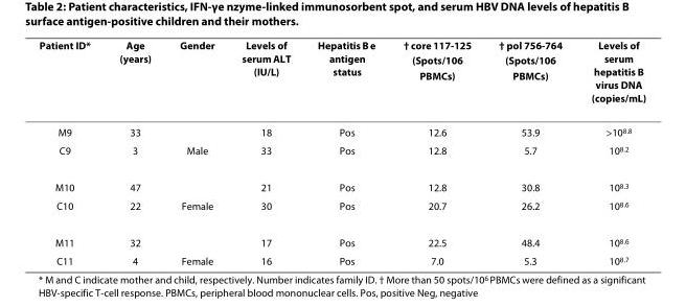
<table><thead><tr><td>Patient ID*</td><td>Age (years)</td><td>Gender</td><td>Levels of serum ALT (IU/L)</td><td>Hepatitis B e antigen status</td><td>† core 117-125 (Spots/10<sup>6</sup> PBMCs)</td><td>† pol 756-764 (Spots/10<sup>6</sup> PBMCs)</td><td>Levels of serum hepatitis B virus DNA (copies/mL)</td></tr></thead><tbody><tr><td>M9</td><td>33</td><td></td><td>18</td><td>Pos</td><td>12.6</td><td>53.9</td><td>&gt;10<sup>8.8</sup></td></tr><tr><td>C9</td><td>3</td><td>Male</td><td>33</td><td>Pos</td><td>12.8</td><td>5.7</td><td>10<sup>8.2</sup></td></tr><tr><td>M10</td><td>47</td><td></td><td>21</td><td>Pos</td><td>12.8</td><td>30.8</td><td>10<sup>8.3</sup></td></tr><tr><td>C10</td><td>22</td><td>Female</td><td>30</td><td>Pos</td><td>20.7</td><td>26.2</td><td>10<sup>8.6</sup></td></tr><tr><td>M11</td><td>32</td><td></td><td>17</td><td>Pos</td><td>22.5</td><td>48.4</td><td>10<sup>8.6</sup></td></tr><tr><td>C11</td><td>4</td><td>Female</td><td>16</td><td>Pos</td><td>7.0</td><td>5.3</td><td>10<sup>8.7</sup></td></tr></tbody></table>